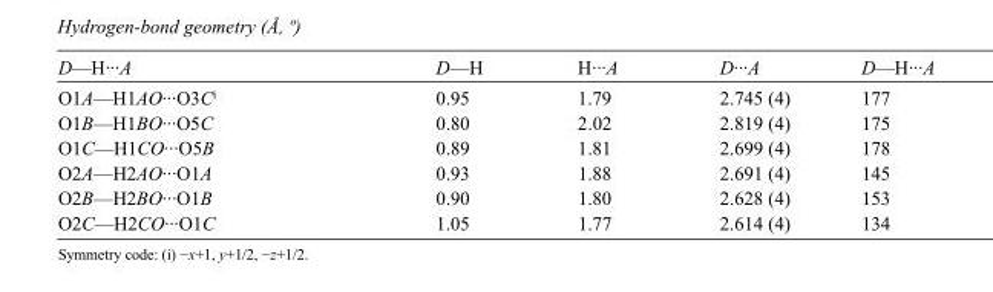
<table><tbody><tr><td>D—H···A</td><td>D—H</td><td>H···A</td><td>D···A</td><td>D—H···A</td></tr><tr><td>O1A—H1AO···O3C<sup>i</sup></td><td>0.95</td><td>1.79</td><td>2.745 (4)</td><td>177</td></tr><tr><td>O1B—H1BO···O5C</td><td>0.80</td><td>2.02</td><td>2.819 (4)</td><td>175</td></tr><tr><td>O1C—H1CO···O5B</td><td>0.89</td><td>1.81</td><td>2.699 (4)</td><td>178</td></tr><tr><td>O2A—H2AO···O1A</td><td>0.93</td><td>1.88</td><td>2.691 (4)</td><td>145</td></tr><tr><td>O2B—H2BO···O1B</td><td>0.90</td><td>1.80</td><td>2.628 (4)</td><td>153</td></tr><tr><td>O2C—H2CO···O1C</td><td>1.05</td><td>1.77</td><td>2.614 (4)</td><td>134</td></tr></tbody></table>